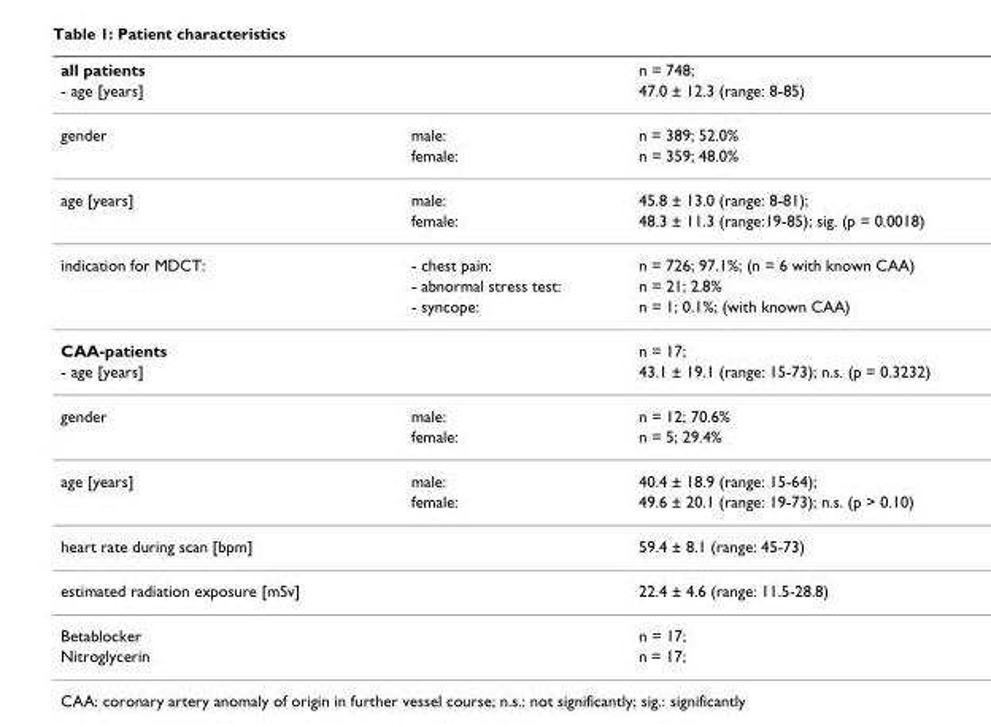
<table><thead><tr><td rowspan="2">all patients - age [years]</td><td rowspan="2"></td><td rowspan="2">n = 748; 47.0 ± 12.3 (range: 8-85)</td></tr><tr></tr></thead><tbody><tr><td rowspan="2">gender</td><td>male:</td><td>n = 389; 52.0%</td></tr><tr><td>female:</td><td>n = 359; 48.0%</td></tr><tr><td rowspan="2">age [years]</td><td>male:</td><td>45.8 ± 13.0 (range: 8-81);</td></tr><tr><td>female:</td><td>48.3 ± 11.3 (range:19-85); sig. (p = 0.0018)</td></tr><tr><td rowspan="3">indication for MDCT:</td><td>- chest pain:</td><td>n = 726; 97.1%; (n = 6 with known CAA)</td></tr><tr><td>- abnormal stress test:</td><td>n = 21; 2.8%</td></tr><tr><td>- syncope:</td><td>n = 1; 0.1%; (with known CAA)</td></tr><tr><td>CAA-patients</td><td></td><td>n = 17;</td></tr><tr><td>- age [years]</td><td></td><td>43.1 ± 19.1 (range: 15-73); n.s. (p = 0.3232)</td></tr><tr><td rowspan="2">gender</td><td>male:</td><td>n = 12; 70.6%</td></tr><tr><td>female:</td><td>n = 5; 29.4%</td></tr><tr><td rowspan="2">age [years]</td><td>male:</td><td>40.4 ± 18.9 (range: 15-64);</td></tr><tr><td>female:</td><td>49.6 ± 20.1 (range: 19-73); n.s. (p &gt; 0.10)</td></tr><tr><td>heart rate during scan [bpm]</td><td></td><td>59.4 ± 8.1 (range: 45-73)</td></tr><tr><td>estimated radiation exposure [mSv]</td><td></td><td>22.4 ± 4.6 (range: 11.5-28.8)</td></tr><tr><td>Betablocker</td><td></td><td>n = 17;</td></tr><tr><td>Nitroglycerin</td><td></td><td>n = 17;</td></tr></tbody></table>